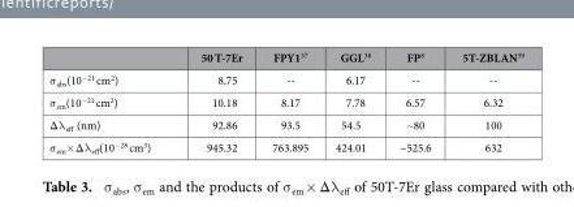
<table><thead><tr><td></td><td>50 T-7Er</td><td>FPY1<sup>37</sup></td><td>GGL<sup>38</sup></td><td>FP<sup>8</sup></td><td>5T-ZBLAN<sup>39</sup></td></tr></thead><tbody><tr><td>σ <sub>abs</sub>(10<sup>−21</sup> cm<sup>2</sup>)</td><td>8.75</td><td>--</td><td>6.17</td><td>--</td><td>--</td></tr><tr><td>σ <sub>em</sub>(10<sup>−21</sup> cm<sup>2</sup>)</td><td>10.18</td><td>8.17</td><td>7.78</td><td>6.57</td><td>6.32</td></tr><tr><td>Δ λ <sub>eff</sub> (nm)</td><td>92.86</td><td>93.5</td><td>54.5</td><td>~80</td><td>100</td></tr><tr><td>σ <sub>em</sub>× Δ λ <sub>eff</sub>(10<sup>−28</sup> cm<sup>3</sup>)</td><td>945.32</td><td>763.895</td><td>424.01</td><td>~525.6</td><td>632</td></tr></tbody></table>